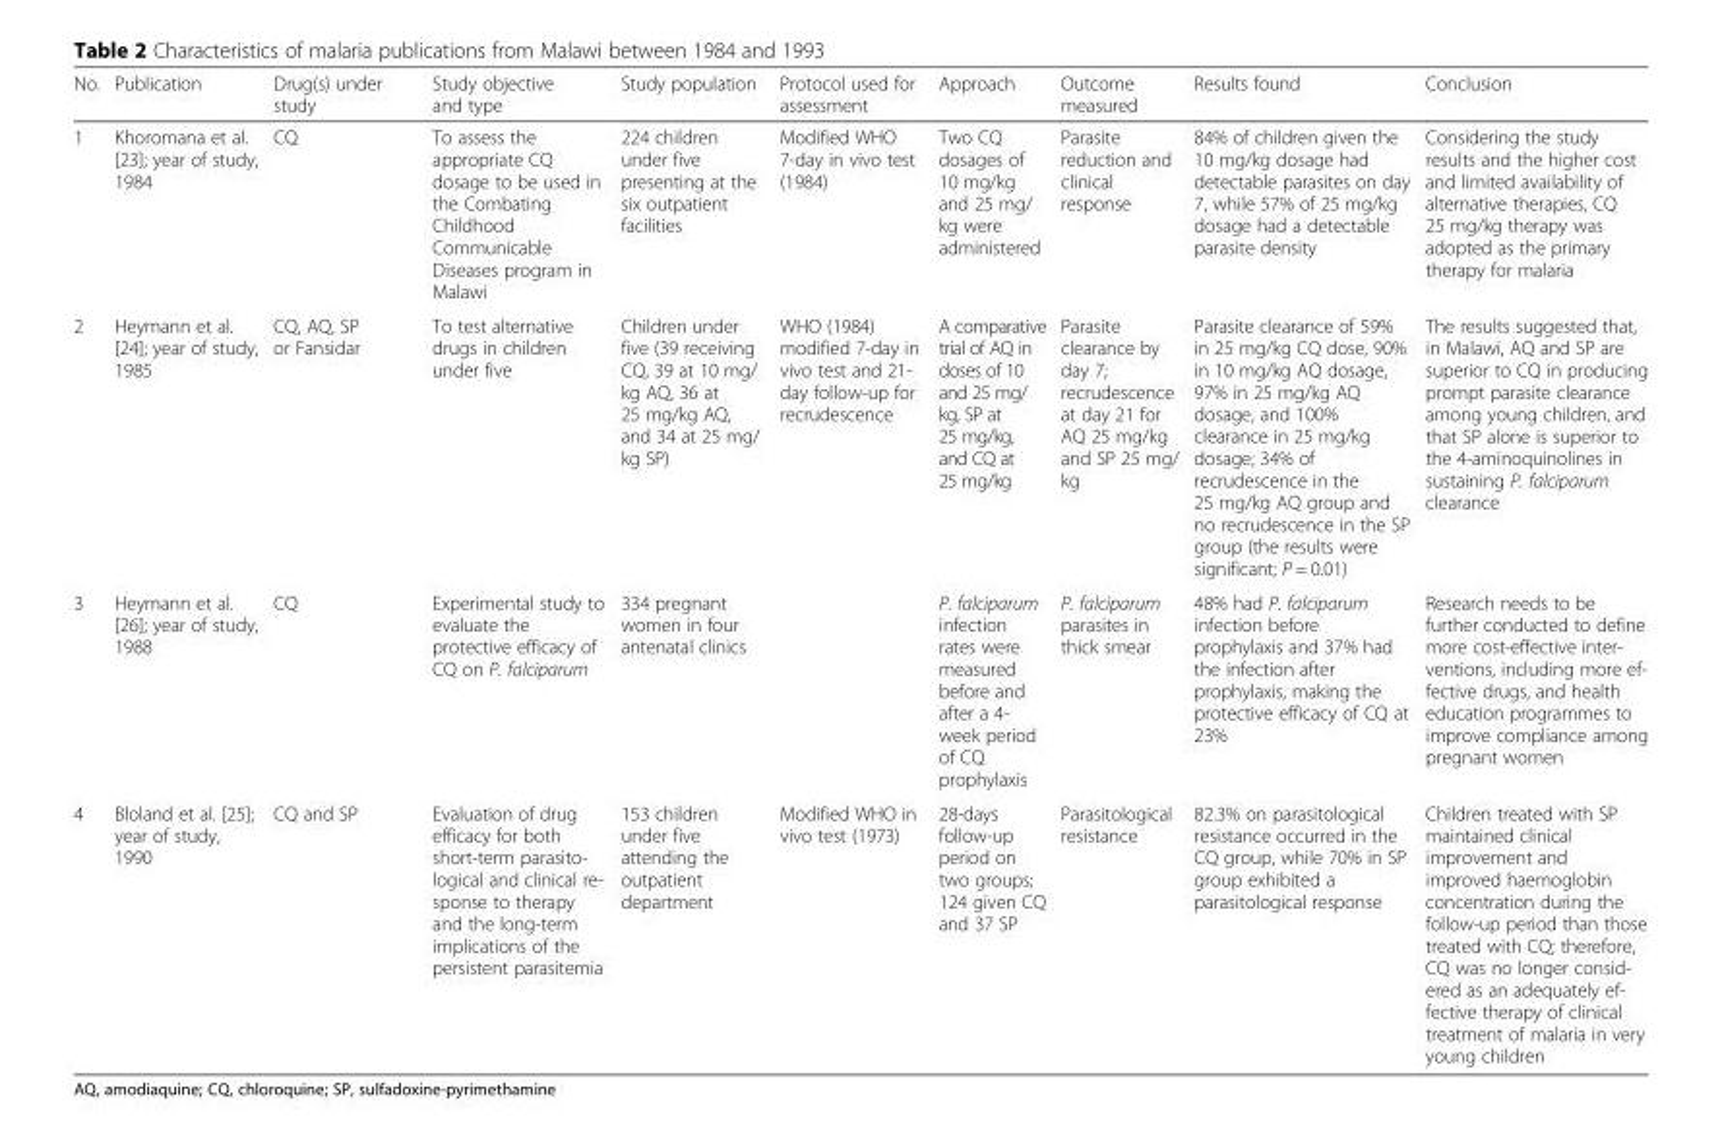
<table><thead><tr><td>No.</td><td>Publication</td><td>Drug(s) under study</td><td>Study objective and type</td><td>Study population</td><td>Protocol used for assessment</td><td>Approach</td><td>Outcome measured</td><td>Results found</td><td>Conclusion</td></tr></thead><tbody><tr><td>1</td><td>Khoromana et al. [23]; year of study, 1984</td><td>CQ</td><td>To assess the appropriate CQ dosage to be used in the Combating Childhood Communicable Diseases program in Malawi</td><td>224 children under five presenting at the six outpatient facilities</td><td>Modified WHO 7-day in vivo test (1984)</td><td>Two CQ dosages of 10 mg/kg and 25 mg/ kg were administered</td><td>Parasite reduction and clinical response</td><td>84% of children given the 10 mg/kg dosage had detectable parasites on day 7, while 57% of 25 mg/kg dosage had a detectable parasite density</td><td>Considering the study results and the higher cost and limited availability of alternative therapies, CQ 25 mg/kg therapy was adopted as the primary therapy for malaria</td></tr><tr><td>2</td><td>Heymann et al. [24]; year of study, 1985</td><td>CQ, AQ, SP or Fansidar</td><td>To test alternative drugs in children under five</td><td>Children under five (39 receiving CQ, 39 at 10 mg/ kg AQ, 36 at 25 mg/kg AQ, and 34 at 25 mg/ kg SP)</td><td>WHO (1984) modified 7-day in vivo test and 21- day follow-up for recrudescence</td><td>A comparative trial of AQ in doses of 10 and 25 mg/ kg, SP at 25 mg/kg, and CQ at 25 mg/kg</td><td>Parasite clearance by day 7; recrudescence at day 21 for AQ 25 mg/kg and SP 25 mg/ kg</td><td>Parasite clearance of 59% in 25 mg/kg CQ dose, 90% in 10 mg/kg AQ dosage, 97% in 25 mg/kg AQ dosage, and 100% clearance in 25 mg/kg dosage; 34% of recrudescence in the 25 mg/kg AQ group and no recrudescence in the SP group (the results were significant; P = 0.01)</td><td>The results suggested that, in Malawi, AQ and SP are superior to CQ in producing prompt parasite clearance among young children, and that SP alone is superior to the 4-aminoquinolines in sustaining P. falciparum clearance</td></tr><tr><td>3</td><td>Heymann et al. [26]; year of study, 1988</td><td>CQ</td><td>Experimental study to evaluate the protective efficacy of CQ on P. falciparum</td><td>334 pregnant women in four antenatal clinics</td><td></td><td>P. falciparum infection rates were measured before and after a 4- week period of CQ prophylaxis</td><td>P. falciparum parasites in thick smear</td><td>48% had P. falciparum infection before prophylaxis and 37% had the infection after prophylaxis, making the protective efficacy of CQ at 23%</td><td>Research needs to be further conducted to define more cost-effective inter- ventions, including more ef- fective drugs, and health education programmes to improve compliance among pregnant women</td></tr><tr><td>4</td><td>Bloland et al. [25]; year of study, 1990</td><td>CQ and SP</td><td>Evaluation of drug efficacy for both short-term parasito- logical and clinical re- sponse to therapy and the long-term implications of the persistent parasitemia</td><td>153 children under five attending the outpatient department</td><td>Modified WHO in vivo test (1973)</td><td>28-days follow-up period on two groups; 124 given CQ and 37 SP</td><td>Parasitological resistance</td><td>82.3% on parasitological resistance occurred in the CQ group, while 70% in SP group exhibited a parasitological response</td><td>Children treated with SP maintained clinical improvement and improved haemoglobin concentration during the follow-up period than those treated with CQ; therefore, CQ was no longer consid- ered as an adequately ef- fective therapy of clinical treatment of malaria in very young children</td></tr></tbody></table>